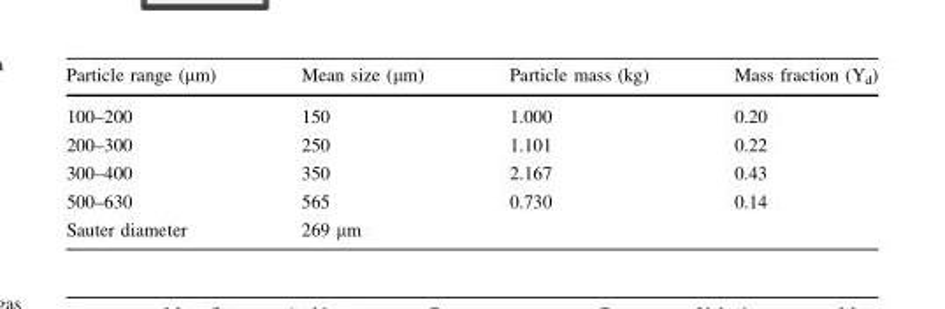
<table><thead><tr><td>Particle range (μm)</td><td>Mean size (μm)</td><td>Particle mass (kg)</td><td>Mass fraction (Y<sub>d</sub>)</td></tr></thead><tbody><tr><td>100–200</td><td>150</td><td>1.000</td><td>0.20</td></tr><tr><td>200–300</td><td>250</td><td>1.101</td><td>0.22</td></tr><tr><td>300–400</td><td>350</td><td>2.167</td><td>0.43</td></tr><tr><td>500–630</td><td>565</td><td>0.730</td><td>0.14</td></tr><tr><td>Sauter diameter</td><td colspan="3">269 μm</td></tr></tbody></table>